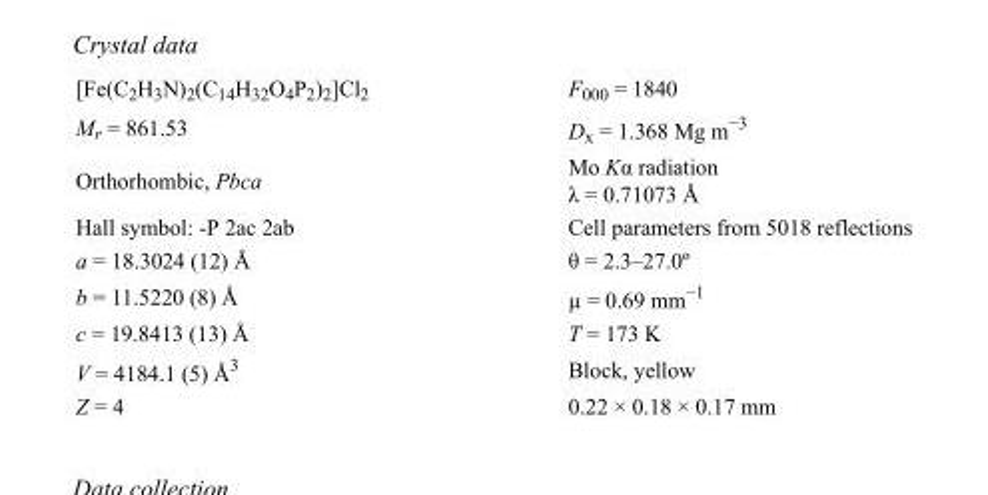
<table><tbody><tr><td>[Fe(C<sub>2</sub>H<sub>3</sub>N)<sub>2</sub>(C<sub>14</sub>H<sub>32</sub>O<sub>4</sub>P<sub>2</sub>)<sub>2</sub>]Cl<sub>2</sub></td><td>F000 = 1840</td></tr><tr><td>M<sub>r</sub> = 861.53</td><td>D<sub>x</sub> = 1.368 Mg m<sup>−3</sup></td></tr><tr><td>Orthorhombic, Pbca</td><td>Mo Kα radiation λ = 0.71073 Å</td></tr><tr><td>Hall symbol: -P 2ac 2ab</td><td>Cell parameters from 5018 reflections</td></tr><tr><td>a = 18.3024 (12) Å</td><td>θ = 2.3–27.0º</td></tr><tr><td>b = 11.5220 (8) Å</td><td>µ = 0.69 mm<sup>−1</sup></td></tr><tr><td>c = 19.8413 (13) Å</td><td>T = 173 K</td></tr><tr><td>V = 4184.1 (5) Å<sup>3</sup></td><td>Block, yellow</td></tr><tr><td>Z = 4</td><td>0.22 × 0.18 × 0.17 mm</td></tr></tbody></table>